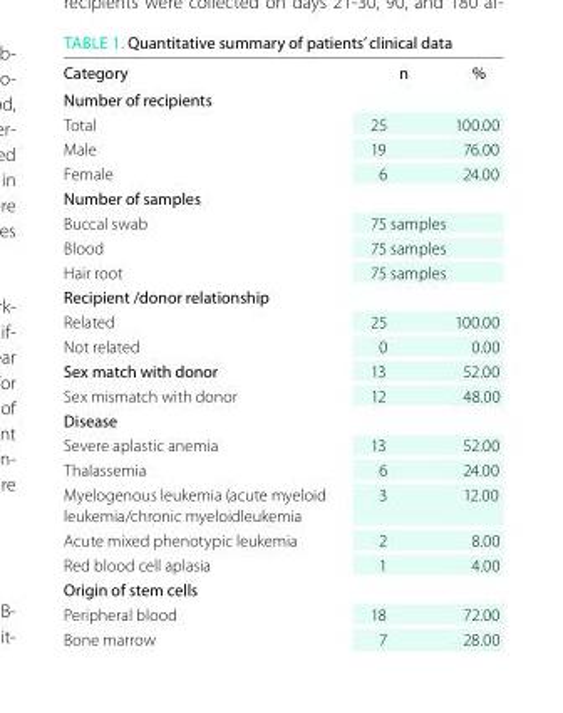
<table><thead><tr><td>Category</td><td>n</td><td>%</td></tr></thead><tbody><tr><td colspan="3">number of recipients</td></tr><tr><td>Total</td><td>25</td><td>100.00</td></tr><tr><td>Male</td><td>19</td><td>76.00</td></tr><tr><td>Female</td><td>6</td><td>24.00</td></tr><tr><td colspan="3">number of samples</td></tr><tr><td>Buccal swab</td><td>75 samples</td><td></td></tr><tr><td>Blood</td><td>75 samples</td><td></td></tr><tr><td>Hair root</td><td>75 samples</td><td></td></tr><tr><td colspan="3">Recipient /donor relationship</td></tr><tr><td>Related</td><td>25</td><td>100.00</td></tr><tr><td>Not related</td><td>0</td><td>0.00</td></tr><tr><td>sex match with donor</td><td>13</td><td>52.00</td></tr><tr><td>Sex mismatch with donor</td><td>12</td><td>48.00</td></tr><tr><td colspan="3">Disease</td></tr><tr><td>Severe aplastic anemia</td><td>13</td><td>52.00</td></tr><tr><td>Thalassemia</td><td>6</td><td>24.00</td></tr><tr><td>Myelogenous leukemia (acute myeloid leukemia/chronic myeloidleukemia</td><td>3</td><td>12.00</td></tr><tr><td>Acute mixed phenotypic leukemia</td><td>2</td><td>8.00</td></tr><tr><td>Red blood cell aplasia</td><td>1</td><td>4.00</td></tr><tr><td colspan="3">origin of stem cells</td></tr><tr><td>Peripheral blood</td><td>18</td><td>72.00</td></tr><tr><td>Bone marrow</td><td>7</td><td>28.00</td></tr></tbody></table>